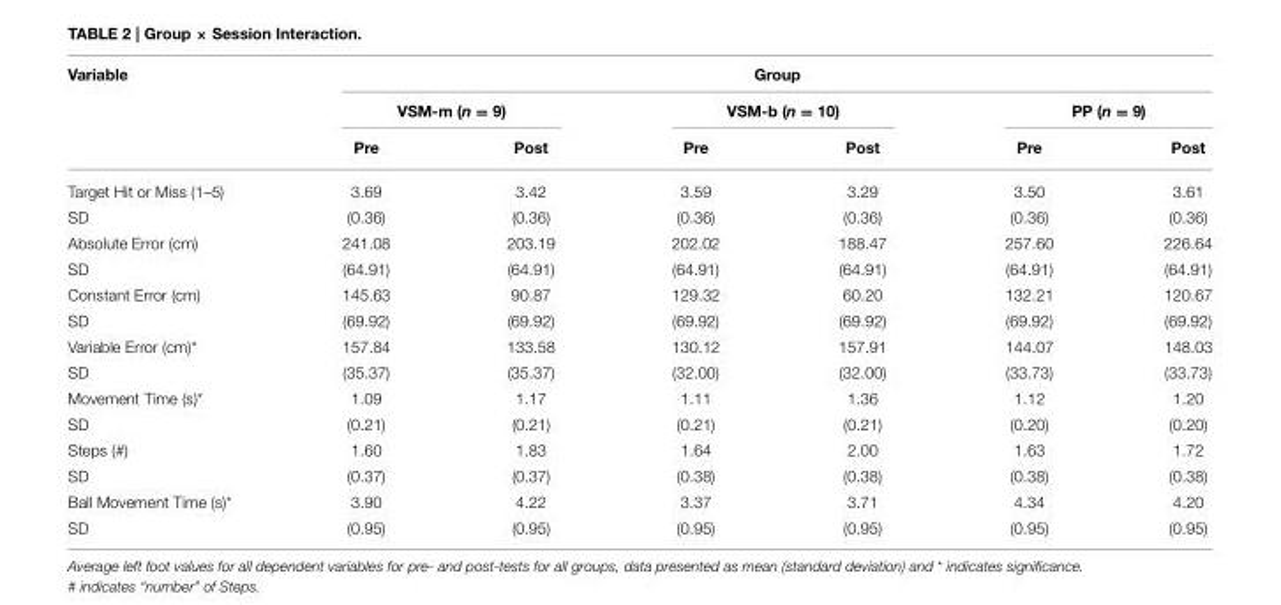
<table><thead><tr><td rowspan="3">Variable</td><td colspan="6">Group</td></tr><tr><td colspan="2">VSM-m (n = 9)</td><td colspan="2">VSM-b (n = 10)</td><td colspan="2">PP (n = 9)</td></tr><tr><td>Pre</td><td>Post</td><td>Pre</td><td>Post</td><td>Pre</td><td>Post</td></tr></thead><tbody><tr><td>Target Hit or Miss (1–5)</td><td>3.69</td><td>3.42</td><td>3.59</td><td>3.29</td><td>3.50</td><td>3.61</td></tr><tr><td>SD</td><td>(0.36)</td><td>(0.36)</td><td>(0.36)</td><td>(0.36)</td><td>(0.36)</td><td>(0.36)</td></tr><tr><td>Absolute Error (cm)</td><td>241.08</td><td>203.19</td><td>202.02</td><td>188.47</td><td>257.60</td><td>226.64</td></tr><tr><td>SD</td><td>(64.91)</td><td>(64.91)</td><td>(64.91)</td><td>(64.91)</td><td>(64.91)</td><td>(64.91)</td></tr><tr><td>Constant Error (cm)</td><td>145.63</td><td>90.87</td><td>129.32</td><td>60.20</td><td>132.21</td><td>120.67</td></tr><tr><td>SD</td><td>(69.92)</td><td>(69.92)</td><td>(69.92)</td><td>(69.92)</td><td>(69.92)</td><td>(69.92)</td></tr><tr><td>Variable Error (cm)*</td><td>157.84</td><td>133.58</td><td>130.12</td><td>157.91</td><td>144.07</td><td>148.03</td></tr><tr><td>SD</td><td>(35.37)</td><td>(35.37)</td><td>(32.00)</td><td>(32.00)</td><td>(33.73)</td><td>(33.73)</td></tr><tr><td>Movement Time (s)*</td><td>1.09</td><td>1.17</td><td>1.11</td><td>1.36</td><td>1.12</td><td>1.20</td></tr><tr><td>SD</td><td>(0.21)</td><td>(0.21)</td><td>(0.21)</td><td>(0.21)</td><td>(0.20)</td><td>(0.20)</td></tr><tr><td>Steps (#)</td><td>1.60</td><td>1.83</td><td>1.64</td><td>2.00</td><td>1.63</td><td>1.72</td></tr><tr><td>SD</td><td>(0.37)</td><td>(0.37)</td><td>(0.38)</td><td>(0.38)</td><td>(0.38)</td><td>(0.38)</td></tr><tr><td>Ball Movement Time (s)*</td><td>3.90</td><td>4.22</td><td>3.37</td><td>3.71</td><td>4.34</td><td>4.20</td></tr><tr><td>SD</td><td>(0.95)</td><td>(0.95)</td><td>(0.95)</td><td>(0.95)</td><td>(0.95)</td><td>(0.95)</td></tr></tbody></table>